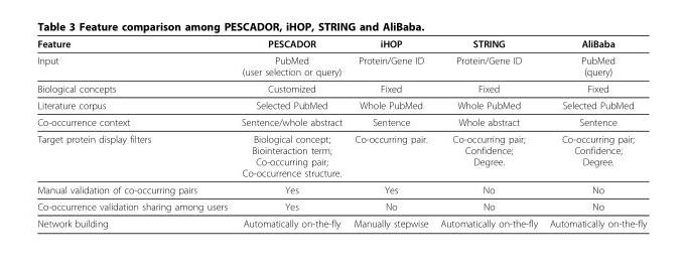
<table><thead><tr><td>Feature</td><td>PESCADOR</td><td>iHOP</td><td>STRING</td><td>AliBaba</td></tr></thead><tbody><tr><td>Input</td><td>PubMed (user selection or query)</td><td>Protein/Gene ID</td><td>Protein/Gene ID</td><td>PubMed (query)</td></tr><tr><td>Biological concepts</td><td>Customized</td><td>Fixed</td><td>Fixed</td><td>Fixed</td></tr><tr><td>Literature corpus</td><td>Selected PubMed</td><td>Whole PubMed</td><td>Whole PubMed</td><td>Selected PubMed</td></tr><tr><td>Co-occurrence context</td><td>Sentence/whole abstract</td><td>Sentence</td><td>Whole abstract</td><td>Sentence</td></tr><tr><td>Target protein display filters</td><td>Biological concept; Biointeraction term; Co-occurring pair; Co-occurrence structure.</td><td>Co-occurring pair.</td><td>Co-occurring pair; Confidence; Degree.</td><td>Co-occurring pair; Confidence; Degree.</td></tr><tr><td>Manual validation of co-occurring pairs</td><td>Yes</td><td>Yes</td><td>No</td><td>No</td></tr><tr><td>Co-occurrence validation sharing among users</td><td>Yes</td><td>No</td><td>No</td><td>No</td></tr><tr><td>Network building</td><td>Automatically on-the-fly</td><td>Manually stepwise</td><td>Automatically on-the-fly</td><td>Automatically on-the-fly</td></tr></tbody></table>